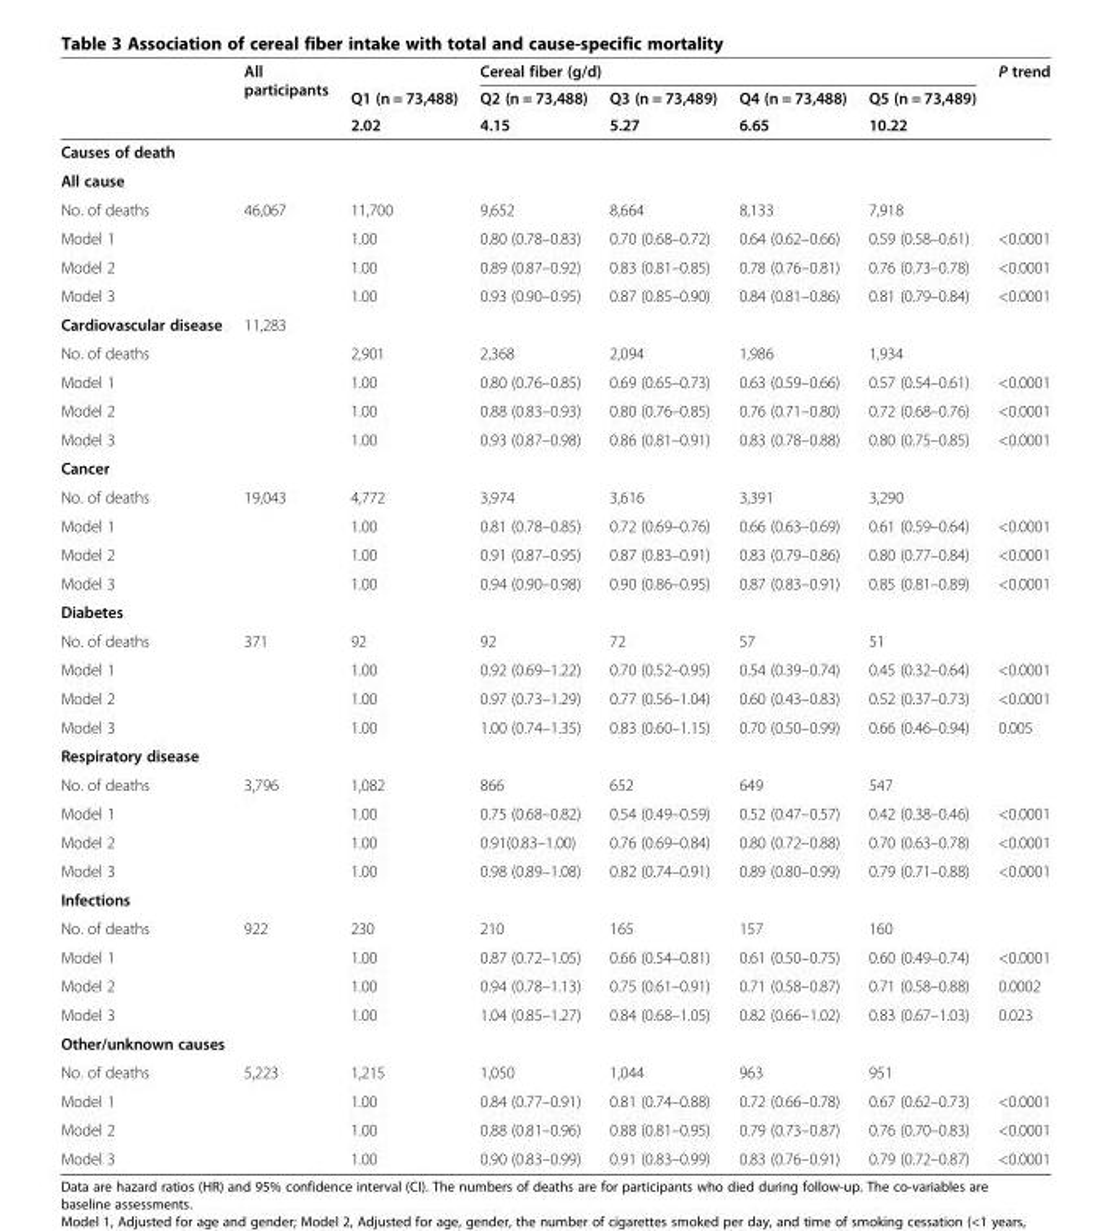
<table><thead><tr><td rowspan="3"></td><td rowspan="3">All participants</td><td rowspan="3">Q1 (n = 73,488) 2.02</td><td colspan="4">Cereal fiber (g/d)</td><td rowspan="3">P trend</td></tr><tr><td rowspan="2">Q2 (n = 73,488) 4.15</td><td rowspan="2">Q3 (n = 73,489) 5.27</td><td rowspan="2">Q4 (n = 73,488) 6.65</td><td rowspan="2">Q5 (n = 73,489) 10.22</td></tr><tr></tr></thead><tbody><tr><td colspan="8">Causes of death</td></tr><tr><td colspan="8">All cause</td></tr><tr><td>No. of deaths</td><td>46,067</td><td>11,700</td><td>9,652</td><td>8,664</td><td>8,133</td><td>7,918</td><td></td></tr><tr><td>Model 1</td><td></td><td>1.00</td><td>0.80 (0.78–0.83)</td><td>0.70 (0.68–0.72)</td><td>0.64 (0.62–0.66)</td><td>0.59 (0.58–0.61)</td><td>&lt;0.0001</td></tr><tr><td>Model 2</td><td></td><td>1.00</td><td>0.89 (0.87–0.92)</td><td>0.83 (0.81–0.85)</td><td>0.78 (0.76–0.81)</td><td>0.76 (0.73–0.78)</td><td>&lt;0.0001</td></tr><tr><td>Model 3</td><td></td><td>1.00</td><td>0.93 (0.90–0.95)</td><td>0.87 (0.85–0.90)</td><td>0.84 (0.81–0.86)</td><td>0.81 (0.79–0.84)</td><td>&lt;0.0001</td></tr><tr><td>Cardiovascular disease</td><td>11,283</td><td></td><td colspan="5"></td></tr><tr><td>No. of deaths</td><td></td><td>2,901</td><td>2,368</td><td>2,094</td><td>1,986</td><td>1,934</td><td></td></tr><tr><td>Model 1</td><td></td><td>1.00</td><td>0.80 (0.76–0.85)</td><td>0.69 (0.65–0.73)</td><td>0.63 (0.59–0.66)</td><td>0.57 (0.54–0.61)</td><td>&lt;0.0001</td></tr><tr><td>Model 2</td><td></td><td>1.00</td><td>0.88 (0.83–0.93)</td><td>0.80 (0.76–0.85)</td><td>0.76 (0.71–0.80)</td><td>0.72 (0.68–0.76)</td><td>&lt;0.0001</td></tr><tr><td>Model 3</td><td></td><td>1.00</td><td>0.93 (0.87–0.98)</td><td>0.86 (0.81–0.91)</td><td>0.83 (0.78–0.88)</td><td>0.80 (0.75–0.85)</td><td>&lt;0.0001</td></tr><tr><td colspan="8">Cancer</td></tr><tr><td>No. of deaths</td><td>19,043</td><td>4,772</td><td>3,974</td><td>3,616</td><td>3,391</td><td>3,290</td><td></td></tr><tr><td>Model 1</td><td></td><td>1.00</td><td>0.81 (0.78–0.85)</td><td>0.72 (0.69–0.76)</td><td>0.66 (0.63–0.69)</td><td>0.61 (0.59–0.64)</td><td>&lt;0.0001</td></tr><tr><td>Model 2</td><td></td><td>1.00</td><td>0.91 (0.87–0.95)</td><td>0.87 (0.83–0.91)</td><td>0.83 (0.79–0.86)</td><td>0.80 (0.77–0.84)</td><td>&lt;0.0001</td></tr><tr><td>Model 3</td><td></td><td>1.00</td><td>0.94 (0.90–0.98)</td><td>0.90 (0.86–0.95)</td><td>0.87 (0.83–0.91)</td><td>0.85 (0.81–0.89)</td><td>&lt;0.0001</td></tr><tr><td colspan="8">Diabetes</td></tr><tr><td>No. of deaths</td><td>371</td><td>92</td><td>92</td><td>72</td><td>57</td><td>51</td><td></td></tr><tr><td>Model 1</td><td></td><td>1.00</td><td>0.92 (0.69–1.22)</td><td>0.70 (0.52–0.95)</td><td>0.54 (0.39–0.74)</td><td>0.45 (0.32–0.64)</td><td>&lt;0.0001</td></tr><tr><td>Model 2</td><td></td><td>1.00</td><td>0.97 (0.73–1.29)</td><td>0.77 (0.56–1.04)</td><td>0.60 (0.43–0.83)</td><td>0.52 (0.37–0.73)</td><td>&lt;0.0001</td></tr><tr><td>Model 3</td><td></td><td>1.00</td><td>1.00 (0.74–1.35)</td><td>0.83 (0.60–1.15)</td><td>0.70 (0.50–0.99)</td><td>0.66 (0.46–0.94)</td><td>0.005</td></tr><tr><td colspan="8">Respiratory disease</td></tr><tr><td>No. of deaths</td><td>3,796</td><td>1,082</td><td>866</td><td>652</td><td>649</td><td>547</td><td></td></tr><tr><td>Model 1</td><td></td><td>1.00</td><td>0.75 (0.68–0.82)</td><td>0.54 (0.49–0.59)</td><td>0.52 (0.47–0.57)</td><td>0.42 (0.38–0.46)</td><td>&lt;0.0001</td></tr><tr><td>Model 2</td><td></td><td>1.00</td><td>0.91(0.83–1.00)</td><td>0.76 (0.69–0.84)</td><td>0.80 (0.72–0.88)</td><td>0.70 (0.63–0.78)</td><td>&lt;0.0001</td></tr><tr><td>Model 3</td><td></td><td>1.00</td><td>0.98 (0.89–1.08)</td><td>0.82 (0.74–0.91)</td><td>0.89 (0.80–0.99)</td><td>0.79 (0.71–0.88)</td><td>&lt;0.0001</td></tr><tr><td colspan="8">Infections</td></tr><tr><td>No. of deaths</td><td>922</td><td>230</td><td>210</td><td>165</td><td>157</td><td>160</td><td></td></tr><tr><td>Model 1</td><td></td><td>1.00</td><td>0.87 (0.72–1.05)</td><td>0.66 (0.54–0.81)</td><td>0.61 (0.50–0.75)</td><td>0.60 (0.49–0.74)</td><td>&lt;0.0001</td></tr><tr><td>Model 2</td><td></td><td>1.00</td><td>0.94 (0.78–1.13)</td><td>0.75 (0.61–0.91)</td><td>0.71 (0.58–0.87)</td><td>0.71 (0.58–0.88)</td><td>0.0002</td></tr><tr><td>Model 3</td><td></td><td>1.00</td><td>1.04 (0.85–1.27)</td><td>0.84 (0.68–1.05)</td><td>0.82 (0.66–1.02)</td><td>0.83 (0.67–1.03)</td><td>0.023</td></tr><tr><td colspan="8">Other/unknown causes</td></tr><tr><td>No. of deaths</td><td>5,223</td><td>1,215</td><td>1,050</td><td>1,044</td><td>963</td><td>951</td><td></td></tr><tr><td>Model 1</td><td></td><td>1.00</td><td>0.84 (0.77–0.91)</td><td>0.81 (0.74–0.88)</td><td>0.72 (0.66–0.78)</td><td>0.67 (0.62–0.73)</td><td>&lt;0.0001</td></tr><tr><td>Model 2</td><td></td><td>1.00</td><td>0.88 (0.81–0.96)</td><td>0.88 (0.81–0.95)</td><td>0.79 (0.73–0.87)</td><td>0.76 (0.70–0.83)</td><td>&lt;0.0001</td></tr><tr><td>Model 3</td><td></td><td>1.00</td><td>0.90 (0.83–0.99)</td><td>0.91 (0.83–0.99)</td><td>0.83 (0.76–0.91)</td><td>0.79 (0.72–0.87)</td><td>&lt;0.0001</td></tr></tbody></table>